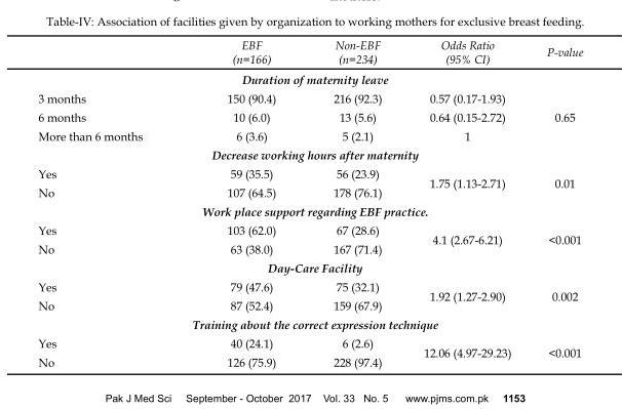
<table><thead><tr><td></td><td>EBF (n=166)</td><td>Non-EBF (n=234)</td><td>Odds Ratio (95% CI)</td><td>P-value</td></tr></thead><tbody><tr><td colspan="5">Duration of maternity leave</td></tr><tr><td>3 months</td><td>150 (90.4)</td><td>216 (92.3)</td><td>0.57 (0.17-1.93)</td><td rowspan="3">0.65</td></tr><tr><td>6 months</td><td>10 (6.0)</td><td>13 (5.6)</td><td>0.64 (0.15-2.72)</td></tr><tr><td>More than 6 months</td><td>6 (3.6)</td><td>5 (2.1)</td><td>1</td></tr><tr><td colspan="5">Decrease working hours after maternity</td></tr><tr><td>Yes</td><td>59 (35.5)</td><td>56 (23.9)</td><td rowspan="2">1.75 (1.13-2.71)</td><td rowspan="2">0.01</td></tr><tr><td>No</td><td>107 (64.5)</td><td>178 (76.1)</td></tr><tr><td colspan="5">Work place support regarding EBF practice.</td></tr><tr><td>Yes</td><td>103 (62.0)</td><td>67 (28.6)</td><td rowspan="2">4.1 (2.67-6.21)</td><td rowspan="2">&lt;0.001</td></tr><tr><td>No</td><td>63 (38.0)</td><td>167 (71.4)</td></tr><tr><td colspan="5">Day-Care Facility</td></tr><tr><td>Yes</td><td>79 (47.6)</td><td>75 (32.1)</td><td rowspan="2">1.92 (1.27-2.90)</td><td rowspan="2">0.002</td></tr><tr><td>No</td><td>87 (52.4)</td><td>159 (67.9)</td></tr><tr><td colspan="5">Training about the correct expression technique</td></tr><tr><td>Yes</td><td>40 (24.1)</td><td>6 (2.6)</td><td rowspan="2">12.06 (4.97-29.23)</td><td rowspan="2">&lt;0.001</td></tr><tr><td>No</td><td>126 (75.9)</td><td>228 (97.4)</td></tr></tbody></table>